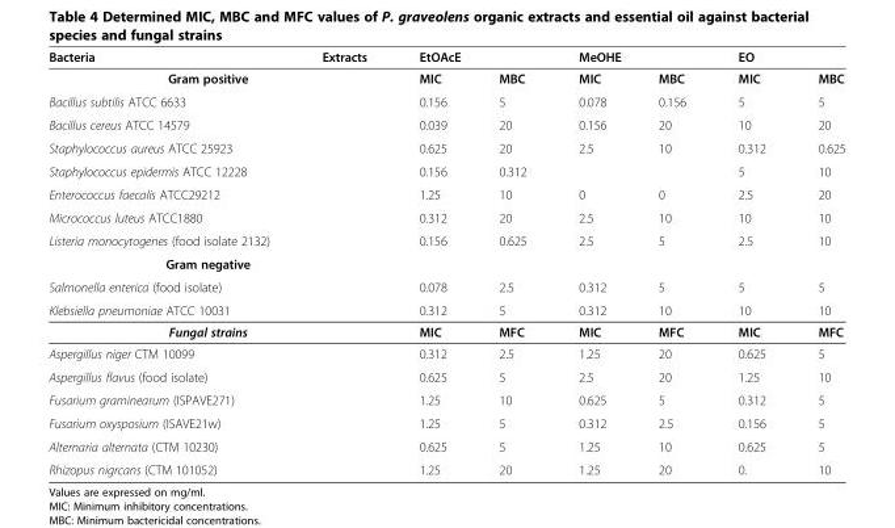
<table><thead><tr><td>Bacteria</td><td>Extracts</td><td colspan="2">EtOAcE</td><td colspan="2">MeOHE</td><td colspan="2">EO</td></tr><tr><td colspan="2">Gram positive</td><td>MIC</td><td>MBC</td><td>MIC</td><td>MBC</td><td>MIC</td><td>MBC</td></tr></thead><tbody><tr><td>Bacillus subtilis ATCC 6633</td><td></td><td>0.156</td><td>5</td><td>0.078</td><td>0.156</td><td>5</td><td>5</td></tr><tr><td>Bacillus cereus ATCC 14579</td><td></td><td>0.039</td><td>20</td><td>0.156</td><td>20</td><td>10</td><td>20</td></tr><tr><td>Staphylococcus aureus ATCC 25923</td><td></td><td>0.625</td><td>20</td><td>2.5</td><td>10</td><td>0.312</td><td>0.625</td></tr><tr><td>Staphylococcus epidermis ATCC 12228</td><td></td><td>0.156</td><td>0.312</td><td></td><td></td><td>5</td><td>10</td></tr><tr><td>Enterococcus faecalis ATCC29212</td><td></td><td>1.25</td><td>10</td><td>0</td><td>0</td><td>2.5</td><td>20</td></tr><tr><td>Micrococcus luteus ATCC1880</td><td></td><td>0.312</td><td>20</td><td>2.5</td><td>10</td><td>10</td><td>10</td></tr><tr><td>Listeria monocytogenes (food isolate 2132)</td><td></td><td>0.156</td><td>0.625</td><td>2.5</td><td>5</td><td>2.5</td><td>10</td></tr><tr><td colspan="8">Gram negative</td></tr><tr><td>Salmonella enterica (food isolate)</td><td></td><td>0.078</td><td>2.5</td><td>0.312</td><td>5</td><td>5</td><td>5</td></tr><tr><td>Klebsiella pneumoniae ATCC 10031</td><td></td><td>0.312</td><td>5</td><td>0.312</td><td>10</td><td>10</td><td>10</td></tr><tr><td colspan="2">Fungal strains</td><td>MIC</td><td>MFC</td><td>MIC</td><td>MFC</td><td>MIC</td><td>MFC</td></tr><tr><td>Aspergillus niger CTM 10099</td><td></td><td>0.312</td><td>2.5</td><td>1.25</td><td>20</td><td>0.625</td><td>5</td></tr><tr><td>Aspergillus flavus (food isolate)</td><td></td><td>0.625</td><td>5</td><td>2.5</td><td>20</td><td>1.25</td><td>10</td></tr><tr><td>Fusarium graminearum (ISPAVE271)</td><td></td><td>1.25</td><td>10</td><td>0.625</td><td>5</td><td>0.312</td><td>5</td></tr><tr><td>Fusarium oxysposium (ISAVE21w)</td><td></td><td>1.25</td><td>5</td><td>0.312</td><td>2.5</td><td>0.156</td><td>5</td></tr><tr><td>Alternaria alternata (CTM 10230)</td><td></td><td>0.625</td><td>5</td><td>1.25</td><td>10</td><td>0.625</td><td>5</td></tr><tr><td>Rhizopus nigrcans (CTM 101052)</td><td></td><td>1.25</td><td>20</td><td>1.25</td><td>20</td><td>0.</td><td>10</td></tr></tbody></table>